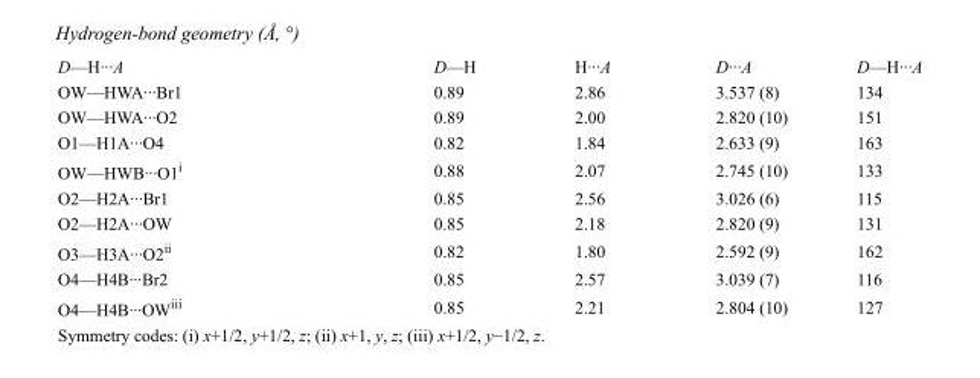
<table><tbody><tr><td>D—H···A</td><td>D—H</td><td>H···A</td><td>D···A</td><td>D—H···A</td></tr><tr><td>OW—HWA···Br1</td><td>0.89</td><td>2.86</td><td>3.537 (8)</td><td>134</td></tr><tr><td>OW—HWA···O2</td><td>0.89</td><td>2.00</td><td>2.820 (10)</td><td>151</td></tr><tr><td>O1—H1A···O4</td><td>0.82</td><td>1.84</td><td>2.633 (9)</td><td>163</td></tr><tr><td>OW—HWB···O1<sup>i</sup></td><td>0.88</td><td>2.07</td><td>2.745 (10)</td><td>133</td></tr><tr><td>O2—H2A···Br1</td><td>0.85</td><td>2.56</td><td>3.026 (6)</td><td>115</td></tr><tr><td>O2—H2A···OW</td><td>0.85</td><td>2.18</td><td>2.820 (9)</td><td>131</td></tr><tr><td>O3—H3A···O2<sup>ii</sup></td><td>0.82</td><td>1.80</td><td>2.592 (9)</td><td>162</td></tr><tr><td>O4—H4B···Br2</td><td>0.85</td><td>2.57</td><td>3.039 (7)</td><td>116</td></tr><tr><td>O4—H4B···OW<sup>iii</sup></td><td>0.85</td><td>2.21</td><td>2.804 (10)</td><td>127</td></tr></tbody></table>